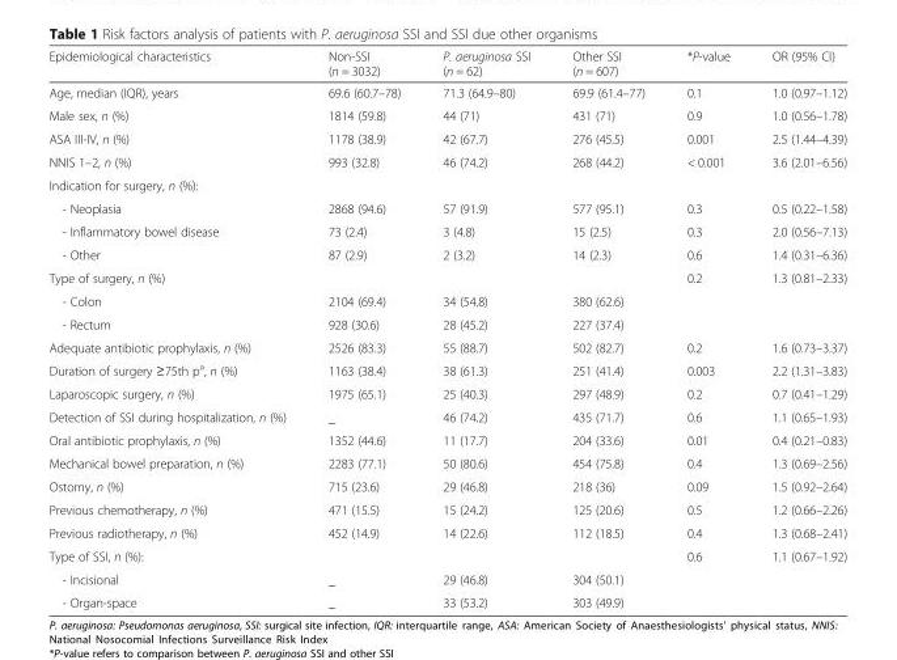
<table><thead><tr><td>Epidemiological characteristics</td><td>Non-SSI (n = 3032)</td><td>P. aeruginosa SSI (n = 62)</td><td>Other SSI (n = 607)</td><td>*P-value</td><td>OR (95% CI)</td></tr></thead><tbody><tr><td>Age, median (IQR), years</td><td>69.6 (60.7–78)</td><td>71.3 (64.9–80)</td><td>69.9 (61.4–77)</td><td>0.1</td><td>1.0 (0.97–1.12)</td></tr><tr><td>Male sex, n (%)</td><td>1814 (59.8)</td><td>44 (71)</td><td>431 (71)</td><td>0.9</td><td>1.0 (0.56–1.78)</td></tr><tr><td>ASA III-IV, n (%)</td><td>1178 (38.9)</td><td>42 (67.7)</td><td>276 (45.5)</td><td>0.001</td><td>2.5 (1.44–4.39)</td></tr><tr><td>NNIS 1–2, n (%)</td><td>993 (32.8)</td><td>46 (74.2)</td><td>268 (44.2)</td><td>&lt; 0.001</td><td>3.6 (2.01–6.56)</td></tr><tr><td colspan="6">Indication for surgery, n (%):</td></tr><tr><td>- Neoplasia</td><td>2868 (94.6)</td><td>57 (91.9)</td><td>577 (95.1)</td><td>0.3</td><td>0.5 (0.22–1.58)</td></tr><tr><td>- Inflammatory bowel disease</td><td>73 (2.4)</td><td>3 (4.8)</td><td>15 (2.5)</td><td>0.3</td><td>2.0 (0.56–7.13)</td></tr><tr><td>- Other</td><td>87 (2.9)</td><td>2 (3.2)</td><td>14 (2.3)</td><td>0.6</td><td>1.4 (0.31–6.36)</td></tr><tr><td>Type of surgery, n (%)</td><td></td><td></td><td></td><td>0.2</td><td>1.3 (0.81–2.33)</td></tr><tr><td>- Colon</td><td>2104 (69.4)</td><td>34 (54.8)</td><td>380 (62.6)</td><td></td><td></td></tr><tr><td>- Rectum</td><td>928 (30.6)</td><td>28 (45.2)</td><td>227 (37.4)</td><td></td><td></td></tr><tr><td>Adequate antibiotic prophylaxis, n (%)</td><td>2526 (83.3)</td><td>55 (88.7)</td><td>502 (82.7)</td><td>0.2</td><td>1.6 (0.73–3.37)</td></tr><tr><td>Duration of surgery ≥75th p<sup>a</sup>, n (%)</td><td>1163 (38.4)</td><td>38 (61.3)</td><td>251 (41.4)</td><td>0.003</td><td>2.2 (1.31–3.83)</td></tr><tr><td>Laparoscopic surgery, n (%)</td><td>1975 (65.1)</td><td>25 (40.3)</td><td>297 (48.9)</td><td>0.2</td><td>0.7 (0.41–1.29)</td></tr><tr><td>Detection of SSI during hospitalization, n (%)</td><td>_</td><td>46 (74.2)</td><td>435 (71.7)</td><td>0.6</td><td>1.1 (0.65–1.93)</td></tr><tr><td>Oral antibiotic prophylaxis, n (%)</td><td>1352 (44.6)</td><td>11 (17.7)</td><td>204 (33.6)</td><td>0.01</td><td>0.4 (0.21–0.83)</td></tr><tr><td>Mechanical bowel preparation, n (%)</td><td>2283 (77.1)</td><td>50 (80.6)</td><td>454 (75.8)</td><td>0.4</td><td>1.3 (0.69–2.56)</td></tr><tr><td>Ostomy, n (%)</td><td>715 (23.6)</td><td>29 (46.8)</td><td>218 (36)</td><td>0.09</td><td>1.5 (0.92–2.64)</td></tr><tr><td>Previous chemotherapy, n (%)</td><td>471 (15.5)</td><td>15 (24.2)</td><td>125 (20.6)</td><td>0.5</td><td>1.2 (0.66–2.26)</td></tr><tr><td>Previous radiotherapy, n (%)</td><td>452 (14.9)</td><td>14 (22.6)</td><td>112 (18.5)</td><td>0.4</td><td>1.3 (0.68–2.41)</td></tr><tr><td>Type of SSI, n (%):</td><td></td><td></td><td></td><td>0.6</td><td>1.1 (0.67–1.92)</td></tr><tr><td>- Incisional</td><td>_</td><td>29 (46.8)</td><td>304 (50.1)</td><td></td><td></td></tr><tr><td>- Organ-space</td><td>_</td><td>33 (53.2)</td><td>303 (49.9)</td><td></td><td></td></tr></tbody></table>